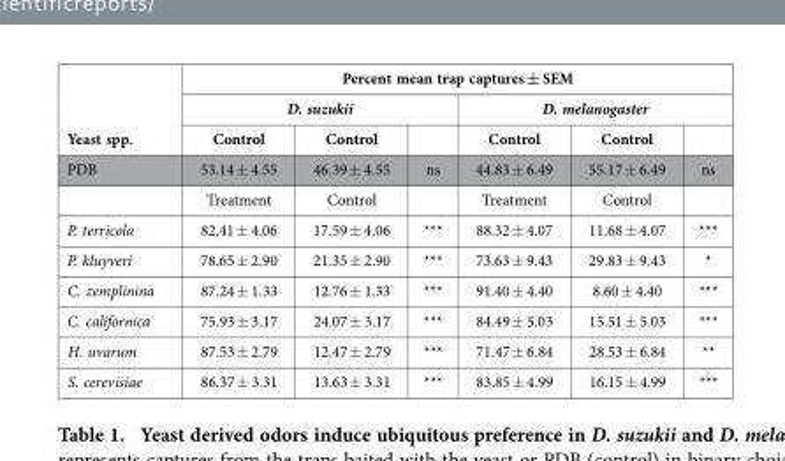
<table><thead><tr><td rowspan="3">Yeast spp.</td><td colspan="6">Percent mean trap captures ± SEM</td></tr><tr><td colspan="3">D. suzukii</td><td colspan="3">D. melanogaster</td></tr><tr><td>Control</td><td>Control</td><td></td><td>Control</td><td>Control</td><td></td></tr></thead><tbody><tr><td rowspan="2">PDB</td><td>53.14 ± 4.55</td><td>46.39 ± 4.55</td><td>ns</td><td>44.83 ± 6.49</td><td>55.17 ± 6.49</td><td>ns</td></tr><tr><td>Treatment</td><td>Control</td><td></td><td>Treatment</td><td>Control</td><td></td></tr><tr><td>P. terricola</td><td>82.41 ± 4.06</td><td>17.59 ± 4.06</td><td>***</td><td>88.32 ± 4.07</td><td>11.68 ± 4.07</td><td>***</td></tr><tr><td>P. kluyveri</td><td>78.65 ± 2.90</td><td>21.35 ± 2.90</td><td>***</td><td>73.63 ± 9.43</td><td>29.83 ± 9.43</td><td>*</td></tr><tr><td>C. zemplinina</td><td>87.24 ± 1.33</td><td>12.76 ± 1.33</td><td>***</td><td>91.40 ± 4.40</td><td>8.60 ± 4.40</td><td>***</td></tr><tr><td>C. californica</td><td>75.93 ± 3.17</td><td>24.07 ± 3.17</td><td>***</td><td>84.49 ± 5.03</td><td>15.51 ± 5.03</td><td>***</td></tr><tr><td>H. uvarum</td><td>87.53 ± 2.79</td><td>12.47 ± 2.79</td><td>***</td><td>71.47 ± 6.84</td><td>28.53 ± 6.84</td><td>**</td></tr><tr><td>S. cerevisiae</td><td>86.37 ± 3.31</td><td>13.63 ± 3.31</td><td>***</td><td>83.85 ± 4.99</td><td>16.15 ± 4.99</td><td>***</td></tr></tbody></table>